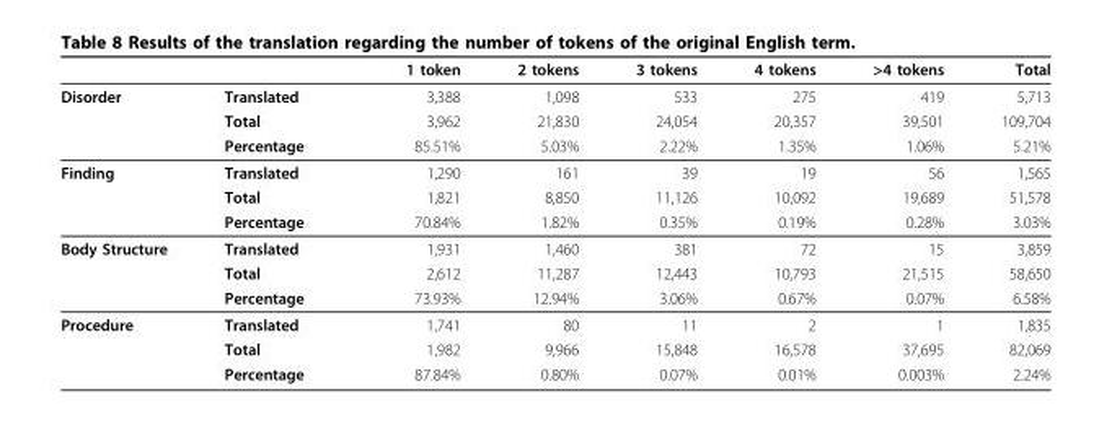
<table><thead><tr><td></td><td></td><td>1 token</td><td>2 tokens</td><td>3 tokens</td><td>4 tokens</td><td>&gt;4 tokens</td><td>Total</td></tr></thead><tbody><tr><td rowspan="3">Disorder</td><td>Translated</td><td>3,388</td><td>1,098</td><td>533</td><td>275</td><td>419</td><td>5,713</td></tr><tr><td>Total</td><td>3,962</td><td>21,830</td><td>24,054</td><td>20,357</td><td>39,501</td><td>109,704</td></tr><tr><td>Percentage</td><td>85.51%</td><td>5.03%</td><td>2.22%</td><td>1.35%</td><td>1.06%</td><td>5.21%</td></tr><tr><td rowspan="3">Finding</td><td>Translated</td><td>1,290</td><td>161</td><td>39</td><td>19</td><td>56</td><td>1,565</td></tr><tr><td>Total</td><td>1,821</td><td>8,850</td><td>11,126</td><td>10,092</td><td>19,689</td><td>51,578</td></tr><tr><td>Percentage</td><td>70.84%</td><td>1.82%</td><td>0.35%</td><td>0.19%</td><td>0.28%</td><td>3.03%</td></tr><tr><td rowspan="3">Body Structure</td><td>Translated</td><td>1,931</td><td>1,460</td><td>381</td><td>72</td><td>15</td><td>3,859</td></tr><tr><td>Total</td><td>2,612</td><td>11,287</td><td>12,443</td><td>10,793</td><td>21,515</td><td>58,650</td></tr><tr><td>Percentage</td><td>73.93%</td><td>12.94%</td><td>3.06%</td><td>0.67%</td><td>0.07%</td><td>6.58%</td></tr><tr><td rowspan="3">Procedure</td><td>Translated</td><td>1,741</td><td>80</td><td>11</td><td>2</td><td>1</td><td>1,835</td></tr><tr><td>Total</td><td>1,982</td><td>9,966</td><td>15,848</td><td>16,578</td><td>37,695</td><td>82,069</td></tr><tr><td>Percentage</td><td>87.84%</td><td>0.80%</td><td>0.07%</td><td>0.01%</td><td>0.003%</td><td>2.24%</td></tr></tbody></table>